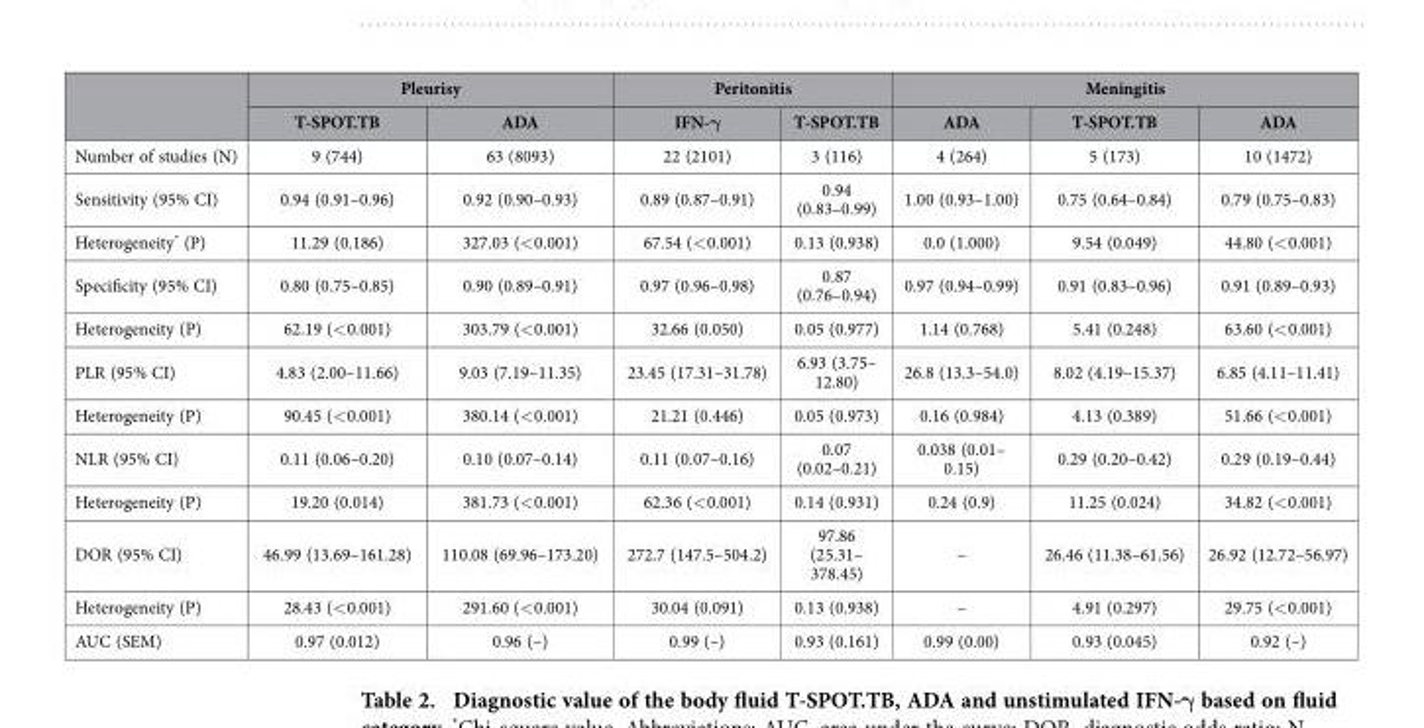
<table><thead><tr><td rowspan="2"></td><td colspan="2">Pleurisy</td><td colspan="2">Peritonitis</td><td colspan="3">Meningitis</td></tr><tr><td>T-SPOT.TB</td><td>ADA</td><td>IFN-γ</td><td>T-SPOT.TB</td><td>ADA</td><td>T-SPOT.TB</td><td>ADA</td></tr></thead><tbody><tr><td>Number of studies (N)</td><td>9 (744)</td><td>63 (8093)</td><td>22 (2101)</td><td>3 (116)</td><td>4 (264)</td><td>5 (173)</td><td>10 (1472)</td></tr><tr><td>Sensitivity (95% CI)</td><td>0.94 (0.91–0.96)</td><td>0.92 (0.90–0.93)</td><td>0.89 (0.87–0.91)</td><td>0.94 (0.83–0.99)</td><td>1.00 (0.93–1.00)</td><td>0.75 (0.64–0.84)</td><td>0.79 (0.75–0.83)</td></tr><tr><td>Heterogeneity* (P)</td><td>11.29 (0.186)</td><td>327.03 (&lt; 0.001)</td><td>67.54 (&lt; 0.001)</td><td>0.13 (0.938)</td><td>0.0 (1.000)</td><td>9.54 (0.049)</td><td>44.80 (&lt; 0.001)</td></tr><tr><td>Specificity (95% CI)</td><td>0.80 (0.75–0.85)</td><td>0.90 (0.89–0.91)</td><td>0.97 (0.96–0.98)</td><td>0.87 (0.76–0.94)</td><td>0.97 (0.94–0.99)</td><td>0.91 (0.83–0.96)</td><td>0.91 (0.89–0.93)</td></tr><tr><td>Heterogeneity (P)</td><td>62.19 (&lt; 0.001)</td><td>303.79 (&lt; 0.001)</td><td>32.66 (0.050)</td><td>0.05 (0.977)</td><td>1.14 (0.768)</td><td>5.41 (0.248)</td><td>63.60 (&lt; 0.001)</td></tr><tr><td>PLR (95% CI)</td><td>4.83 (2.00–11.66)</td><td>9.03 (7.19–11.35)</td><td>23.45 (17.31–31.78)</td><td>6.93 (3.75– 12.80)</td><td>26.8 (13.3–54.0)</td><td>8.02 (4.19–15.37)</td><td>6.85 (4.11–11.41)</td></tr><tr><td>Heterogeneity (P)</td><td>90.45 (&lt; 0.001)</td><td>380.14 (&lt; 0.001)</td><td>21.21 (0.446)</td><td>0.05 (0.973)</td><td>0.16 (0.984)</td><td>4.13 (0.389)</td><td>51.66 (&lt; 0.001)</td></tr><tr><td>NLR (95% CI)</td><td>0.11 (0.06–0.20)</td><td>0.10 (0.07–0.14)</td><td>0.11 (0.07–0.16)</td><td>0.07 (0.02–0.21)</td><td>0.038 (0.01– 0.15)</td><td>0.29 (0.20–0.42)</td><td>0.29 (0.19–0.44)</td></tr><tr><td>Heterogeneity (P)</td><td>19.20 (0.014)</td><td>381.73 (&lt; 0.001)</td><td>62.36 (&lt; 0.001)</td><td>0.14 (0.931)</td><td>0.24 (0.9)</td><td>11.25 (0.024)</td><td>34.82 (&lt; 0.001)</td></tr><tr><td>DOR (95% CI)</td><td>46.99 (13.69–161.28)</td><td>110.08 (69.96–173.20)</td><td>272.7 (147.5–504.2)</td><td>97.86 (25.31– 378.45)</td><td>–</td><td>26.46 (11.38–61.56)</td><td>26.92 (12.72–56.97)</td></tr><tr><td>Heterogeneity (P)</td><td>28.43 (&lt; 0.001)</td><td>291.60 (&lt; 0.001)</td><td>30.04 (0.091)</td><td>0.13 (0.938)</td><td>–</td><td>4.91 (0.297)</td><td>29.75 (&lt; 0.001)</td></tr><tr><td>AUC (SEM)</td><td>0.97 (0.012)</td><td>0.96 (–)</td><td>0.99 (–)</td><td>0.93 (0.161)</td><td>0.99 (0.00)</td><td>0.93 (0.045)</td><td>0.92 (–)</td></tr></tbody></table>